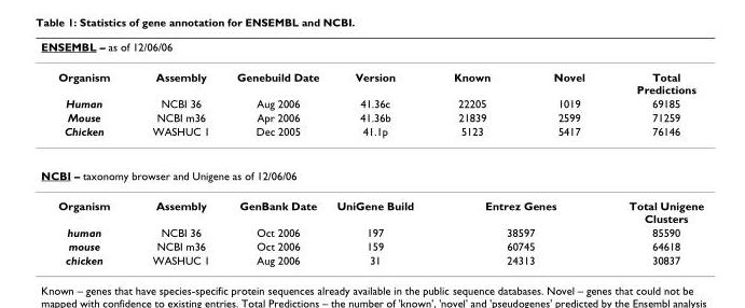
<table><thead><tr><td colspan="7">ENSEMBL – as of 12/06/06</td></tr><tr><td>Organism</td><td>Assembly</td><td>Genebuild Date</td><td>Version</td><td>Known</td><td>Novel</td><td>Total Predictions</td></tr></thead><tbody><tr><td>Human</td><td>NCBI 36</td><td>Aug 2006</td><td>41.36c</td><td>22205</td><td>1019</td><td>69185</td></tr><tr><td>Mouse</td><td>NCBI m36</td><td>Apr 2006</td><td>41.36b</td><td>21839</td><td>2599</td><td>71259</td></tr><tr><td>Chicken</td><td>WASHUC 1</td><td>Dec 2005</td><td>41.1p</td><td>5123</td><td>5417</td><td>76146</td></tr><tr><td colspan="7">NCBI – taxonomy browser and Unigene as of 12/06/06</td></tr><tr><td>Organism</td><td>Assembly</td><td>GenBank Date</td><td>UniGene Build</td><td colspan="2">Entrez Genes</td><td>Total Unigene Clusters</td></tr><tr><td>human</td><td>NCBI 36</td><td>Oct 2006</td><td>197</td><td colspan="2">38597</td><td>85590</td></tr><tr><td>mouse</td><td>NCBI m36</td><td>Oct 2006</td><td>159</td><td colspan="2">60745</td><td>64618</td></tr><tr><td>chicken</td><td>WASHUC 1</td><td>Aug 2006</td><td>31</td><td colspan="2">24313</td><td>30837</td></tr></tbody></table>